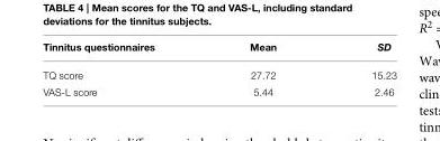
<table><thead><tr><td>Tinnitus questionnaires</td><td>Mean</td><td>SD</td></tr></thead><tbody><tr><td>TQ score</td><td>27.72</td><td>15.23</td></tr><tr><td>VAS-L score</td><td>5.44</td><td>2.46</td></tr></tbody></table>